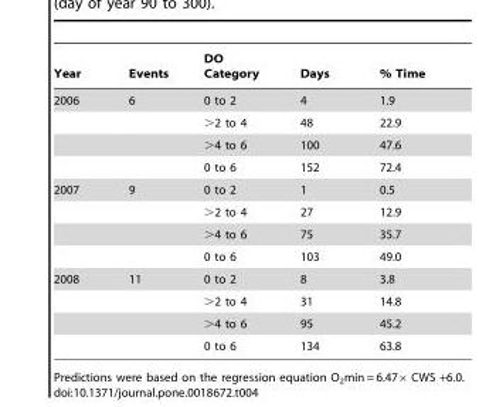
<table><thead><tr><td>Year</td><td>Events</td><td>DO Category</td><td>Days</td><td>% Time</td></tr></thead><tbody><tr><td rowspan="4">2006</td><td>6</td><td>0 to 2</td><td>4</td><td>1.9</td></tr><tr><td></td><td>&gt;2 to 4</td><td>48</td><td>22.9</td></tr><tr><td></td><td>&gt;4 to 6</td><td>100</td><td>47.6</td></tr><tr><td></td><td>0 to 6</td><td>152</td><td>72.4</td></tr><tr><td rowspan="4">2007</td><td>9</td><td>0 to 2</td><td>1</td><td>0.5</td></tr><tr><td></td><td>&gt;2 to 4</td><td>27</td><td>12.9</td></tr><tr><td></td><td>&gt;4 to 6</td><td>75</td><td>35.7</td></tr><tr><td></td><td>0 to 6</td><td>103</td><td>49.0</td></tr><tr><td rowspan="4">2008</td><td>11</td><td>0 to 2</td><td>8</td><td>3.8</td></tr><tr><td></td><td>&gt;2 to 4</td><td>31</td><td>14.8</td></tr><tr><td></td><td>&gt;4 to 6</td><td>95</td><td>45.2</td></tr><tr><td></td><td>0 to 6</td><td>134</td><td>63.8</td></tr></tbody></table>